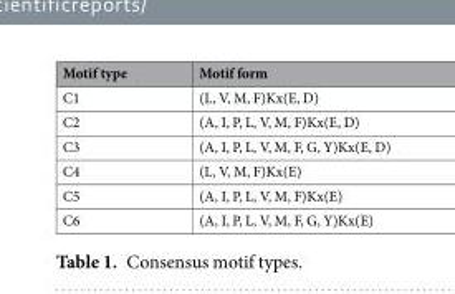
<table><thead><tr><td>Motif type</td><td>Motif form</td></tr></thead><tbody><tr><td>C1</td><td>(L, V, M, F)Kx(E, D)</td></tr><tr><td>C2</td><td>(A, I, P, L, V, M, F)Kx(E, D)</td></tr><tr><td>C3</td><td>(A, I, P, L, V, M, F, G, Y)Kx(E, D)</td></tr><tr><td>C4</td><td>(L, V, M, F)Kx(E)</td></tr><tr><td>C5</td><td>(A, I, P, L, V, M, F)Kx(E)</td></tr><tr><td>C6</td><td>(A, I, P, L, V, M, F, G, Y)Kx(E)</td></tr></tbody></table>